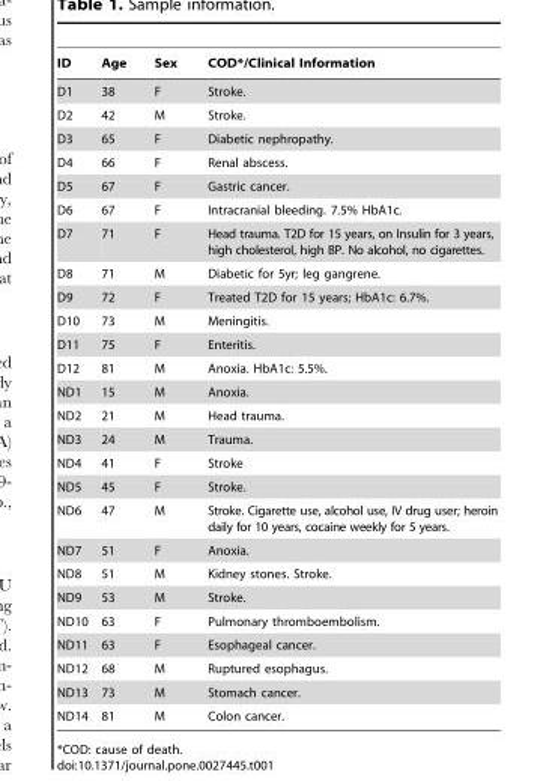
<table><thead><tr><td>ID</td><td>Age</td><td>Sex</td><td>COD*/Clinical Information</td></tr></thead><tbody><tr><td>D1</td><td>38</td><td>F</td><td>Stroke.</td></tr><tr><td>D2</td><td>42</td><td>M</td><td>Stroke.</td></tr><tr><td>D3</td><td>65</td><td>F</td><td>Diabetic nephropathy.</td></tr><tr><td>D4</td><td>66</td><td>F</td><td>Renal abscess.</td></tr><tr><td>D5</td><td>67</td><td>F</td><td>Gastric cancer.</td></tr><tr><td>D6</td><td>67</td><td>F</td><td>Intracranial bleeding. 7.5% HbA1c.</td></tr><tr><td>D7</td><td>71</td><td>F</td><td>Head trauma. T2D for 15 years, on Insulin for 3 years, high cholesterol, high BP. No alcohol, no cigarettes.</td></tr><tr><td>D8</td><td>71</td><td>M</td><td>Diabetic for 5yr; leg gangrene.</td></tr><tr><td>D9</td><td>72</td><td>F</td><td>Treated T2D for 15 years; HbA1c: 6.7%.</td></tr><tr><td>D10</td><td>73</td><td>M</td><td>Meningitis.</td></tr><tr><td>D11</td><td>75</td><td>F</td><td>Enteritis.</td></tr><tr><td>D12</td><td>81</td><td>M</td><td>Anoxia. HbA1c: 5.5%.</td></tr><tr><td>ND1</td><td>15</td><td>M</td><td>Anoxia.</td></tr><tr><td>ND2</td><td>21</td><td>M</td><td>Head trauma.</td></tr><tr><td>ND3</td><td>24</td><td>M</td><td>Trauma.</td></tr><tr><td>ND4</td><td>41</td><td>F</td><td>Stroke</td></tr><tr><td>ND5</td><td>45</td><td>F</td><td>Stroke.</td></tr><tr><td>ND6</td><td>47</td><td>M</td><td>Stroke. Cigarette use, alcohol use, IV drug user; heroin daily for 10 years, cocaine weekly for 5 years.</td></tr><tr><td>ND7</td><td>51</td><td>F</td><td>Anoxia.</td></tr><tr><td>ND8</td><td>51</td><td>M</td><td>Kidney stones. Stroke.</td></tr><tr><td>ND9</td><td>53</td><td>M</td><td>Stroke.</td></tr><tr><td>ND10</td><td>63</td><td>F</td><td>Pulmonary thromboembolism.</td></tr><tr><td>ND11</td><td>63</td><td>F</td><td>Esophageal cancer.</td></tr><tr><td>ND12</td><td>68</td><td>M</td><td>Ruptured esophagus.</td></tr><tr><td>ND13</td><td>73</td><td>M</td><td>Stomach cancer.</td></tr><tr><td>ND14</td><td>81</td><td>M</td><td>Colon cancer.</td></tr></tbody></table>